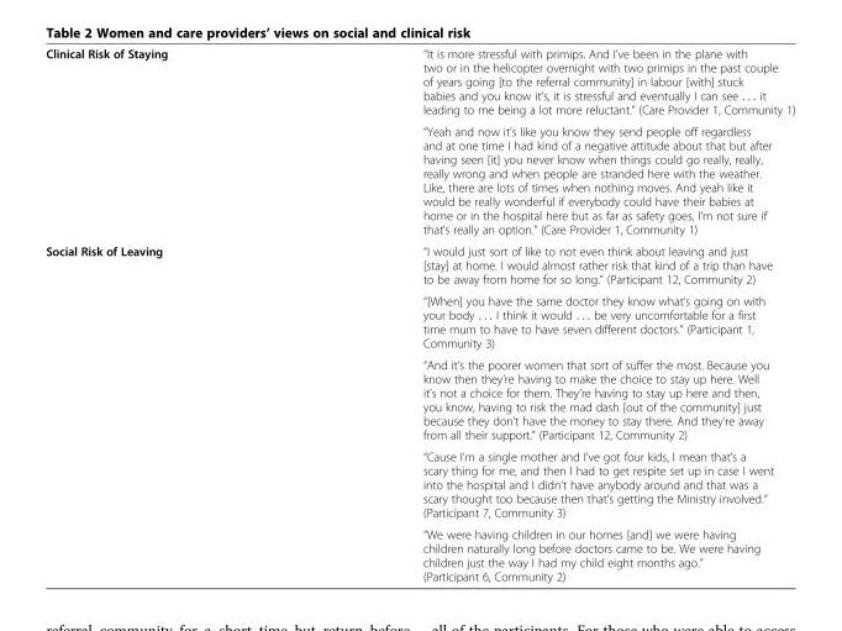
<table><tbody><tr><td rowspan="2">Clinical Risk of Staying</td><td>“It is more stressful with primips. And I’ve been in the plane with two or in the helicopter overnight with two primips in the past couple of years going [to the referral community] in labour [with] stuck babies and you know it’s, it is stressful and eventually I can see . . . it leading to me being a lot more reluctant.” (Care Provider 1, Community 1)</td></tr><tr><td>“Yeah and now it’s like you know they send people off regardless and at one time I had kind of a negative attitude about that but after having seen [it] you never know when things could go really, really, really wrong and when people are stranded here with the weather. Like, there are lots of times when nothing moves. And yeah like it would be really wonderful if everybody could have their babies at home or in the hospital here but as far as safety goes, I’m not sure if that’s really an option.” (Care Provider 1, Community 1)</td></tr><tr><td rowspan="5">Social Risk of Leaving</td><td>“I would just sort of like to not even think about leaving and just [stay] at home. I would almost rather risk that kind of a trip than have to be away from home for so long.” (Participant 12, Community 2)</td></tr><tr><td>“[When] you have the same doctor they know what’s going on with your body . . . I think it would . . . be very uncomfortable for a first time mum to have to have seven different doctors.” (Participant 1, Community 3)</td></tr><tr><td>“And it’s the poorer women that sort of suffer the most. Because you know then they’re having to make the choice to stay up here. Well it’s not a choice for them. They’re having to stay up here and then, you know, having to risk the mad dash [out of the community] just because they don’t have the money to stay there. And they’re away from all their support.” (Participant 12, Community 2)</td></tr><tr><td>“Cause I’m a single mother and I’ve got four kids, I mean that’s a scary thing for me, and then I had to get respite set up in case I went into the hospital and I didn’t have anybody around and that was a scary thought too because then that’s getting the Ministry involved.” (Participant 7, Community 3)</td></tr><tr><td>“We were having children in our homes [and] we were having children naturally long before doctors came to be. We were having children just the way I had my child eight months ago.” (Participant 6, Community 2)</td></tr></tbody></table>